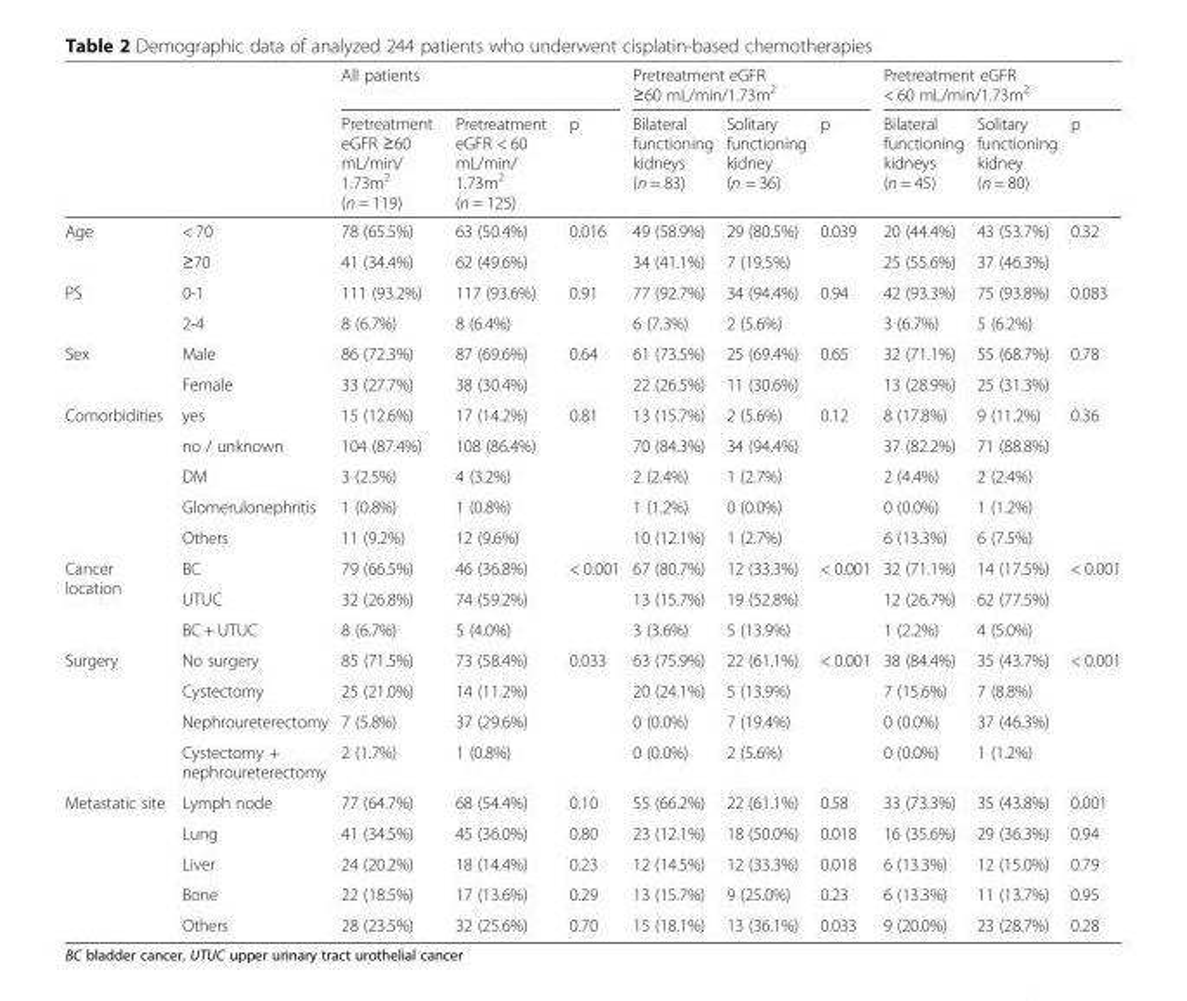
<table><thead><tr><td rowspan="2"></td><td rowspan="2"></td><td colspan="3">All patients</td><td colspan="3">Pretreatment eGFR ≥60 mL/min/1.73m<sup>2</sup></td><td colspan="3">Pretreatment eGFR &lt; 60 mL/min/1.73m<sup>2</sup></td></tr><tr><td>Pretreatment eGFR ≥60 mL/min/ 1.73m<sup>2</sup> (n = 119)</td><td>Pretreatment eGFR &lt; 60 mL/min/ 1.73m<sup>2</sup> (n = 125)</td><td>p</td><td>Bilateral functioning kidneys (n = 83)</td><td>Solitary functioning kidney (n = 36)</td><td>p</td><td>Bilateral functioning kidneys (n = 45)</td><td>Solitary functioning kidney (n = 80)</td><td>p</td></tr></thead><tbody><tr><td rowspan="2">Age</td><td>&lt; 70</td><td>78 (65.5%)</td><td>63 (50.4%)</td><td>0.016</td><td>49 (58.9%)</td><td>29 (80.5%)</td><td>0.039</td><td>20 (44.4%)</td><td>43 (53.7%)</td><td>0.32</td></tr><tr><td>≥70</td><td>41 (34.4%)</td><td>62 (49.6%)</td><td></td><td>34 (41.1%)</td><td>7 (19.5%)</td><td></td><td>25 (55.6%)</td><td>37 (46.3%)</td><td></td></tr><tr><td rowspan="2">PS</td><td>0-1</td><td>111 (93.2%)</td><td>117 (93.6%)</td><td>0.91</td><td>77 (92.7%)</td><td>34 (94.4%)</td><td>0.94</td><td>42 (93.3%)</td><td>75 (93.8%)</td><td>0.083</td></tr><tr><td>2-4</td><td>8 (6.7%)</td><td>8 (6.4%)</td><td></td><td>6 (7.3%)</td><td>2 (5.6%)</td><td></td><td>3 (6.7%)</td><td>5 (6.2%)</td><td></td></tr><tr><td rowspan="2">Sex</td><td>Male</td><td>86 (72.3%)</td><td>87 (69.6%)</td><td>0.64</td><td>61 (73.5%)</td><td>25 (69.4%)</td><td>0.65</td><td>32 (71.1%)</td><td>55 (68.7%)</td><td>0.78</td></tr><tr><td>Female</td><td>33 (27.7%)</td><td>38 (30.4%)</td><td></td><td>22 (26.5%)</td><td>11 (30.6%)</td><td></td><td>13 (28.9%)</td><td>25 (31.3%)</td><td></td></tr><tr><td rowspan="5">Comorbidities</td><td>yes</td><td>15 (12.6%)</td><td>17 (14.2%)</td><td>0.81</td><td>13 (15.7%)</td><td>2 (5.6%)</td><td>0.12</td><td>8 (17.8%)</td><td>9 (11.2%)</td><td>0.36</td></tr><tr><td>no / unknown</td><td>104 (87.4%)</td><td>108 (86.4%)</td><td></td><td>70 (84.3%)</td><td>34 (94.4%)</td><td></td><td>37 (82.2%)</td><td>71 (88.8%)</td><td></td></tr><tr><td>DM</td><td>3 (2.5%)</td><td>4 (3.2%)</td><td></td><td>2 (2.4%)</td><td>1 (2.7%)</td><td></td><td>2 (4.4%)</td><td>2 (2.4%)</td><td></td></tr><tr><td>Glomerulonephritis</td><td>1 (0.8%)</td><td>1 (0.8%)</td><td></td><td>1 (1.2%)</td><td>0 (0.0%)</td><td></td><td>0 (0.0%)</td><td>1 (1.2%)</td><td></td></tr><tr><td>Others</td><td>11 (9.2%)</td><td>12 (9.6%)</td><td></td><td>10 (12.1%)</td><td>1 (2.7%)</td><td></td><td>6 (13.3%)</td><td>6 (7.5%)</td><td></td></tr><tr><td rowspan="3">Cancer location</td><td>BC</td><td>79 (66.5%)</td><td>46 (36.8%)</td><td>&lt; 0.001</td><td>67 (80.7%)</td><td>12 (33.3%)</td><td>&lt; 0.001</td><td>32 (71.1%)</td><td>14 (17.5%)</td><td>&lt; 0.001</td></tr><tr><td>UTUC</td><td>32 (26.8%)</td><td>74 (59.2%)</td><td></td><td>13 (15.7%)</td><td>19 (52.8%)</td><td></td><td>12 (26.7%)</td><td>62 (77.5%)</td><td></td></tr><tr><td>BC + UTUC</td><td>8 (6.7%)</td><td>5 (4.0%)</td><td></td><td>3 (3.6%)</td><td>5 (13.9%)</td><td></td><td>1 (2.2%)</td><td>4 (5.0%)</td><td></td></tr><tr><td rowspan="4">Surgery</td><td>No surgery</td><td>85 (71.5%)</td><td>73 (58.4%)</td><td>0.033</td><td>63 (75.9%)</td><td>22 (61.1%)</td><td>&lt; 0.001</td><td>38 (84.4%)</td><td>35 (43.7%)</td><td>&lt; 0.001</td></tr><tr><td>Cystectomy</td><td>25 (21.0%)</td><td>14 (11.2%)</td><td></td><td>20 (24.1%)</td><td>5 (13.9%)</td><td></td><td>7 (15.6%)</td><td>7 (8.8%)</td><td></td></tr><tr><td>Nephroureterectomy</td><td>7 (5.8%)</td><td>37 (29.6%)</td><td></td><td>0 (0.0%)</td><td>7 (19.4%)</td><td></td><td>0 (0.0%)</td><td>37 (46.3%)</td><td></td></tr><tr><td>Cystectomy + nephroureterectomy</td><td>2 (1.7%)</td><td>1 (0.8%)</td><td></td><td>0 (0.0%)</td><td>2 (5.6%)</td><td></td><td>0 (0.0%)</td><td>1 (1.2%)</td><td></td></tr><tr><td rowspan="5">Metastatic site</td><td>Lymph node</td><td>77 (64.7%)</td><td>68 (54.4%)</td><td>0.10</td><td>55 (66.2%)</td><td>22 (61.1%)</td><td>0.58</td><td>33 (73.3%)</td><td>35 (43.8%)</td><td>0.001</td></tr><tr><td>Lung</td><td>41 (34.5%)</td><td>45 (36.0%)</td><td>0.80</td><td>23 (12.1%)</td><td>18 (50.0%)</td><td>0.018</td><td>16 (35.6%)</td><td>29 (36.3%)</td><td>0.94</td></tr><tr><td>Liver</td><td>24 (20.2%)</td><td>18 (14.4%)</td><td>0.23</td><td>12 (14.5%)</td><td>12 (33.3%)</td><td>0.018</td><td>6 (13.3%)</td><td>12 (15.0%)</td><td>0.79</td></tr><tr><td>Bone</td><td>22 (18.5%)</td><td>17 (13.6%)</td><td>0.29</td><td>13 (15.7%)</td><td>9 (25.0%)</td><td>0.23</td><td>6 (13.3%)</td><td>11 (13.7%)</td><td>0.95</td></tr><tr><td>Others</td><td>28 (23.5%)</td><td>32 (25.6%)</td><td>0.70</td><td>15 (18.1%)</td><td>13 (36.1%)</td><td>0.033</td><td>9 (20.0%)</td><td>23 (28.7%)</td><td>0.28</td></tr></tbody></table>